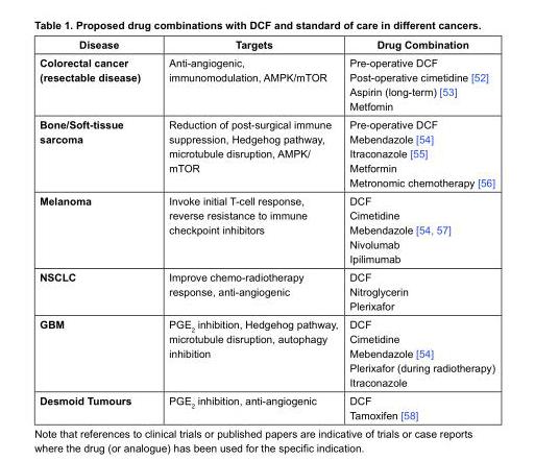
<table><thead><tr><td>Disease</td><td>Targets</td><td>Drug Combination</td></tr></thead><tbody><tr><td>Colorectal cancer (resectable disease)</td><td>Anti-angiogenic, immunomodulation, AMPK/mTOR</td><td>Pre-operative DCF Post-operative cimetidine [52] Aspirin (long-term) [53] Metfomin</td></tr><tr><td>Bone/Soft-tissue sarcoma</td><td>Reduction of post-surgical immune suppression, Hedgehog pathway, microtubule disruption, AMPK/ mTOR</td><td>Pre-operative DCF Mebendazole [54] Itraconazole [55] Metformin Metronomic chemotherapy [56]</td></tr><tr><td>Melanoma</td><td>Invoke initial T-cell response, reverse resistance to immune checkpoint inhibitors</td><td>DCF Cimetidine Mebendazole [54, 57] Nivolumab Ipilimumab</td></tr><tr><td>NSCLC</td><td>Improve chemo-radiotherapy response, anti-angiogenic</td><td>DCF Nitroglycerin Plerixafor</td></tr><tr><td>GBM</td><td>PGE<sub>2</sub> inhibition, Hedgehog pathway, microtubule disruption, autophagy inhibition</td><td>DCF Cimetidine Mebendazole [54] Plerixafor (during radiotherapy) Itraconazole</td></tr><tr><td>Desmoid Tumours</td><td>PGE<sub>2</sub> inhibition, anti-angiogenic</td><td>DCF Tamoxifen [58]</td></tr></tbody></table>